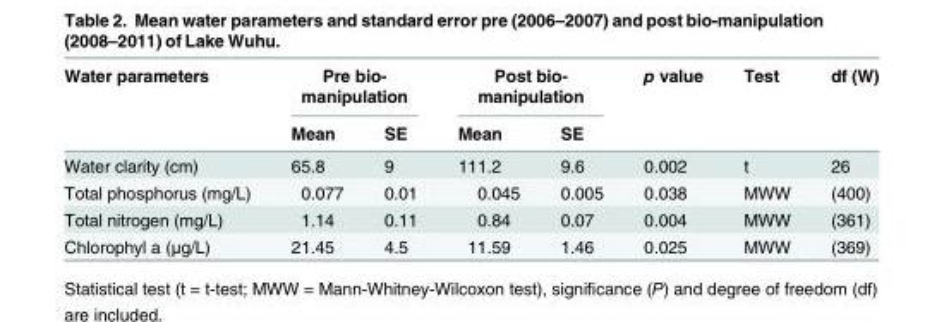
<table><thead><tr><td rowspan="2">Water parameters</td><td colspan="2">Pre bio- manipulation</td><td colspan="2">Post bio- manipulation</td><td rowspan="2">p value</td><td rowspan="2">Test</td><td rowspan="2">df (W)</td></tr><tr><td>Mean</td><td>SE</td><td>Mean</td><td>SE</td></tr></thead><tbody><tr><td>Water clarity (cm)</td><td>65.8</td><td>9</td><td>111.2</td><td>9.6</td><td>0.002</td><td>t</td><td>26</td></tr><tr><td>Total phosphorus (mg/L)</td><td>0.077</td><td>0.01</td><td>0.045</td><td>0.005</td><td>0.038</td><td>MWW</td><td>(400)</td></tr><tr><td>Total nitrogen (mg/L)</td><td>1.14</td><td>0.11</td><td>0.84</td><td>0.07</td><td>0.004</td><td>MWW</td><td>(361)</td></tr><tr><td>Chlorophyl a (μg/L)</td><td>21.45</td><td>4.5</td><td>11.59</td><td>1.46</td><td>0.025</td><td>MWW</td><td>(369)</td></tr></tbody></table>